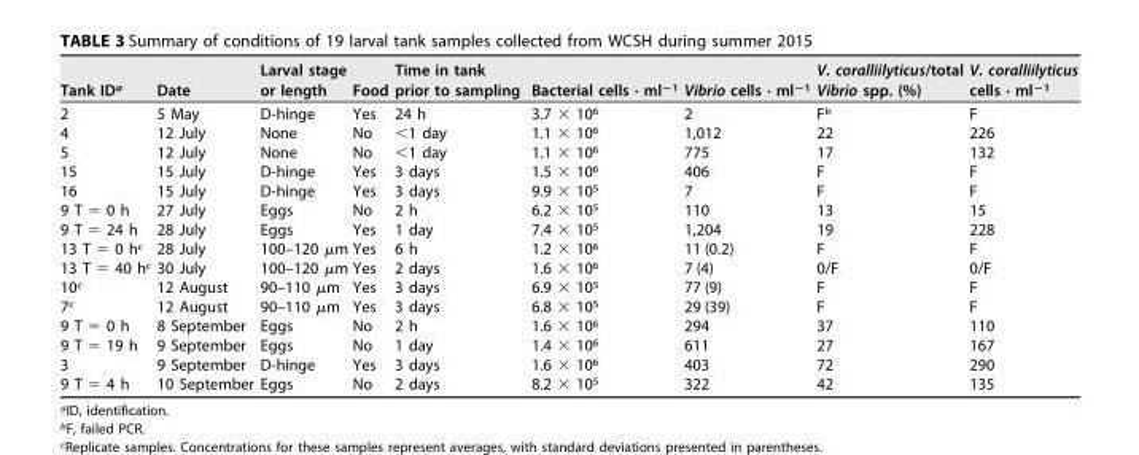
<table><thead><tr><td>Tank ID<sup>a</sup></td><td>Date</td><td>Larval stage or length</td><td>Food</td><td>Time in tank prior to sampling</td><td>Bacterial cells · ml<sup>−1</sup></td><td>Vibrio cells · ml<sup>−1</sup></td><td>V. coralliilyticus/total Vibrio spp. (%)</td><td>V. coralliilyticus cells · ml<sup>−1</sup></td></tr></thead><tbody><tr><td>2</td><td>5 May</td><td>D-hinge</td><td>Yes</td><td>24 h</td><td>3.7 × 10<sup>6</sup></td><td>2</td><td>F<sup>b</sup></td><td>F</td></tr><tr><td>4</td><td>12 July</td><td>None</td><td>No</td><td>&lt;1 day</td><td>1.1 × 10<sup>6</sup></td><td>1,012</td><td>22</td><td>226</td></tr><tr><td>5</td><td>12 July</td><td>None</td><td>No</td><td>&lt;1 day</td><td>1.1 × 10<sup>6</sup></td><td>775</td><td>17</td><td>132</td></tr><tr><td>15</td><td>15 July</td><td>D-hinge</td><td>Yes</td><td>3 days</td><td>1.5 × 10<sup>6</sup></td><td>406</td><td>F</td><td>F</td></tr><tr><td>16</td><td>15 July</td><td>D-hinge</td><td>Yes</td><td>3 days</td><td>9.9 × 10<sup>5</sup></td><td>7</td><td>F</td><td>F</td></tr><tr><td>9 T = 0 h</td><td>27 July</td><td>Eggs</td><td>No</td><td>2 h</td><td>6.2 × 10<sup>5</sup></td><td>110</td><td>13</td><td>15</td></tr><tr><td>9 T = 24 h</td><td>28 July</td><td>Eggs</td><td>Yes</td><td>1 day</td><td>7.4 × 10<sup>5</sup></td><td>1,204</td><td>19</td><td>228</td></tr><tr><td>13 T = 0 h<sup>c</sup></td><td>28 July</td><td>100–120 μm</td><td>Yes</td><td>6 h</td><td>1.2 × 10<sup>6</sup></td><td>11 (0.2)</td><td>F</td><td>F</td></tr><tr><td>13 T = 40 h<sup>c</sup></td><td>30 July</td><td>100–120 μm</td><td>Yes</td><td>2 days</td><td>1.6 × 10<sup>6</sup></td><td>7 (4)</td><td>0/F</td><td>0/F</td></tr><tr><td>10<sup>c</sup></td><td>12 August</td><td>90–110 μm</td><td>Yes</td><td>3 days</td><td>6.9 × 10<sup>5</sup></td><td>77 (9)</td><td>F</td><td>F</td></tr><tr><td>7<sup>c</sup></td><td>12 August</td><td>90–110 μm</td><td>Yes</td><td>3 days</td><td>6.8 × 10<sup>5</sup></td><td>29 (39)</td><td>F</td><td>F</td></tr><tr><td>9 T = 0 h</td><td>8 September</td><td>Eggs</td><td>No</td><td>2 h</td><td>1.6 × 10<sup>6</sup></td><td>294</td><td>37</td><td>110</td></tr><tr><td>9 T = 19 h</td><td>9 September</td><td>Eggs</td><td>No</td><td>1 day</td><td>1.4 × 10<sup>6</sup></td><td>611</td><td>27</td><td>167</td></tr><tr><td>3</td><td>9 September</td><td>D-hinge</td><td>Yes</td><td>3 days</td><td>1.6 × 10<sup>6</sup></td><td>403</td><td>72</td><td>290</td></tr><tr><td>9 T = 4 h</td><td>10 September</td><td>Eggs</td><td>No</td><td>2 days</td><td>8.2 × 10<sup>5</sup></td><td>322</td><td>42</td><td>135</td></tr></tbody></table>